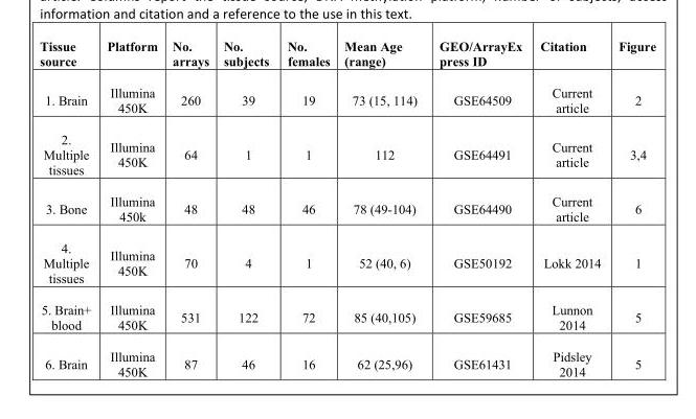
<table><thead><tr><td>Tissue source</td><td>Platform</td><td>No. arrays</td><td>No. subjects</td><td>No. females</td><td>Mean Age (range)</td><td>GEO/ArrayEx press ID</td><td>Citation</td><td>Figure</td></tr></thead><tbody><tr><td>1. Brain</td><td>Illumina 450K</td><td>260</td><td>39</td><td>19</td><td>73 (15, 114)</td><td>GSE64509</td><td>Current article</td><td>2</td></tr><tr><td>2. Multiple tissues</td><td>Illumina 450K</td><td>64</td><td>1</td><td>1</td><td>112</td><td>GSE64491</td><td>Current article</td><td>3,4</td></tr><tr><td>3. Bone</td><td>Illumina 450k</td><td>48</td><td>48</td><td>46</td><td>78 (49-104)</td><td>GSE64490</td><td>Current article</td><td>6</td></tr><tr><td>4. Multiple tissues</td><td>Illumina 450K</td><td>70</td><td>4</td><td>1</td><td>52 (40, 6)</td><td>GSE50192</td><td>Lokk 2014</td><td>1</td></tr><tr><td>5. Brain+ blood</td><td>Illumina 450K</td><td>531</td><td>122</td><td>72</td><td>85 (40,105)</td><td>GSE59685</td><td>Lunnon 2014</td><td>5</td></tr><tr><td>6. Brain</td><td>Illumina 450K</td><td>87</td><td>46</td><td>16</td><td>62 (25,96)</td><td>GSE61431</td><td>Pidsley 2014</td><td>5</td></tr></tbody></table>